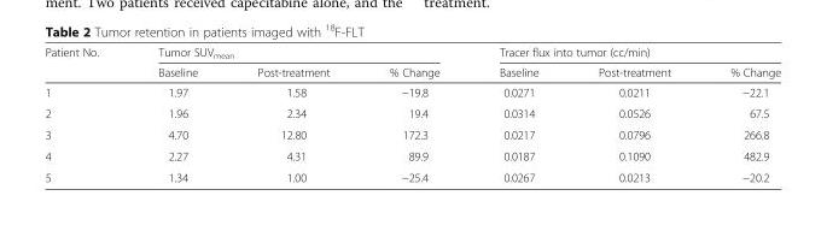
<table><thead><tr><td rowspan="2">Patient No.</td><td colspan="3">Tumor SUV<sub>mean</sub></td><td colspan="3">Tracer flux into tumor (cc/min)</td></tr><tr><td>Baseline</td><td>Post-treatment</td><td>% Change</td><td>Baseline</td><td>Post-treatment</td><td>% Change</td></tr></thead><tbody><tr><td>1</td><td>1.97</td><td>1.58</td><td>−19.8</td><td>0.0271</td><td>0.0211</td><td>−22.1</td></tr><tr><td>2</td><td>1.96</td><td>2.34</td><td>19.4</td><td>0.0314</td><td>0.0526</td><td>67.5</td></tr><tr><td>3</td><td>4.70</td><td>12.80</td><td>172.3</td><td>0.0217</td><td>0.0796</td><td>266.8</td></tr><tr><td>4</td><td>2.27</td><td>4.31</td><td>89.9</td><td>0.0187</td><td>0.1090</td><td>482.9</td></tr><tr><td>5</td><td>1.34</td><td>1.00</td><td>−25.4</td><td>0.0267</td><td>0.0213</td><td>−20.2</td></tr></tbody></table>